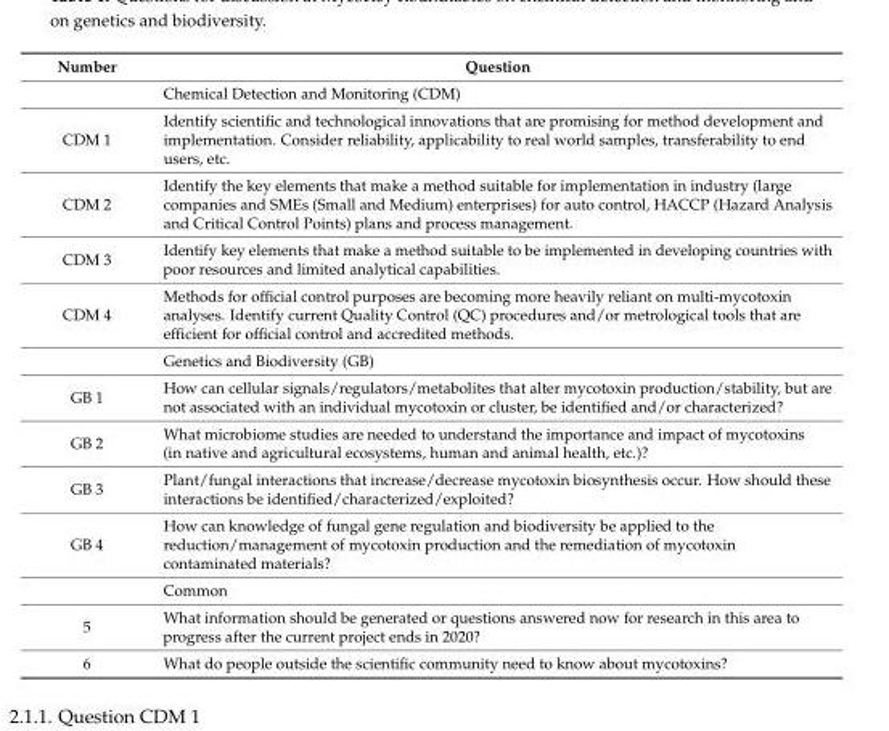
<table><thead><tr><td>Number</td><td>Question</td></tr></thead><tbody><tr><td></td><td>Chemical Detection and Monitoring (CDM)</td></tr><tr><td>CDM 1</td><td>Identify scientific and technological innovations that are promising for method development and implementation. Consider reliability, applicability to real world samples, transferability to end users, etc.</td></tr><tr><td>CDM 2</td><td>Identify the key elements that make a method suitable for implementation in industry (large companies and SMEs (Small and Medium) enterprises) for auto control, HACCP (Hazard Analysis and Critical Control Points) plans and process management.</td></tr><tr><td>CDM 3</td><td>Identify key elements that make a method suitable to be implemented in developing countries with poor resources and limited analytical capabilities.</td></tr><tr><td rowspan="2">CDM 4</td><td>Methods for official control purposes are becoming more heavily reliant on multi-mycotoxin analyses. Identify current Quality Control (QC) procedures and/or metrological tools that are efficient for official control and accredited methods.</td></tr><tr><td>Genetics and Biodiversity (GB)</td></tr><tr><td>GB 1</td><td>How can cellular signals/regulators/metabolites that alter mycotoxin production/stability, but are not associated with an individual mycotoxin or cluster, be identified and/or characterized?</td></tr><tr><td>GB 2</td><td>What microbiome studies are needed to understand the importance and impact of mycotoxins (in native and agricultural ecosystems, human and animal health, etc.)?</td></tr><tr><td>GB 3</td><td>Plant/fungal interactions that increase/decrease mycotoxin biosynthesis occur. How should these interactions be identified/characterized/exploited?</td></tr><tr><td rowspan="2">GB 4</td><td>How can knowledge of fungal gene regulation and biodiversity be applied to the reduction/management of mycotoxin production and the remediation of mycotoxin contaminated materials?</td></tr><tr><td>Common</td></tr><tr><td>5</td><td>What information should be generated or questions answered now for research in this area to progress after the current project ends in 2020?</td></tr><tr><td>6</td><td>What do people outside the scientific community need to know about mycotoxins?</td></tr></tbody></table>